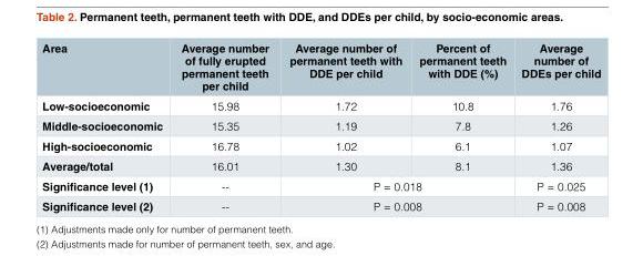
<table><thead><tr><td>Area</td><td>Average number of fully erupted permanent teeth per child</td><td>Average number of permanent teeth with DDE per child</td><td>Percent of permanent teeth with DDE (%)</td><td>Average number of DDEs per child</td></tr></thead><tbody><tr><td>Low-socioeconomic</td><td>15.98</td><td>1.72</td><td>10.8</td><td>1.76</td></tr><tr><td>Middle-socioeconomic</td><td>15.35</td><td>1.19</td><td>7.8</td><td>1.26</td></tr><tr><td>High-socioeconomic</td><td>16.78</td><td>1.02</td><td>6.1</td><td>1.07</td></tr><tr><td>Average/total</td><td>16.01</td><td>1.30</td><td>8.1</td><td>1.36</td></tr><tr><td>Significance level (1)</td><td>--</td><td colspan="2">P = 0.018</td><td>P = 0.025</td></tr><tr><td>Significance level (2)</td><td>--</td><td colspan="2">P = 0.008</td><td>P = 0.008</td></tr></tbody></table>